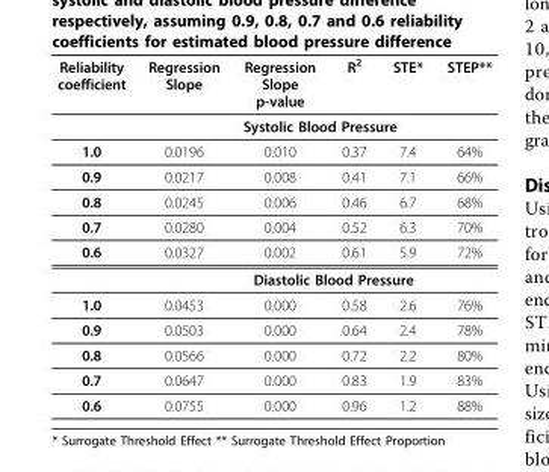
<table><thead><tr><td>Reliability coefficient</td><td>Regression Slope</td><td>Regression Slope p-value</td><td>R2</td><td>STE*</td><td>STEP**</td></tr></thead><tbody><tr><td></td><td colspan="5">Systolic Blood Pressure</td></tr><tr><td>1.0</td><td>0.0196</td><td>0.010</td><td>0.37</td><td>7.4</td><td>64%</td></tr><tr><td>0.9</td><td>0.0217</td><td>0.008</td><td>0.41</td><td>7.1</td><td>66%</td></tr><tr><td>0.8</td><td>0.0245</td><td>0.006</td><td>0.46</td><td>6.7</td><td>68%</td></tr><tr><td>0.7</td><td>0.0280</td><td>0.004</td><td>0.52</td><td>6.3</td><td>70%</td></tr><tr><td rowspan="2">0.6</td><td>0.0327</td><td>0.002</td><td>0.61</td><td>5.9</td><td>72%</td></tr><tr><td></td><td colspan="3">Diastolic Blood Pressure</td><td></td></tr><tr><td>1.0</td><td>0.0453</td><td>0.000</td><td>0.58</td><td>2.6</td><td>76%</td></tr><tr><td>0.9</td><td>0.0503</td><td>0.000</td><td>0.64</td><td>2.4</td><td>78%</td></tr><tr><td>0.8</td><td>0.0566</td><td>0.000</td><td>0.72</td><td>2.2</td><td>80%</td></tr><tr><td>0.7</td><td>0.0647</td><td>0.000</td><td>0.83</td><td>1.9</td><td>83%</td></tr><tr><td>0.6</td><td>0.0755</td><td>0.000</td><td>0.96</td><td>1.2</td><td>88%</td></tr></tbody></table>